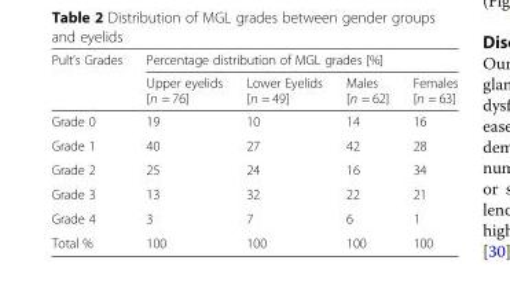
<table><thead><tr><td rowspan="2">Pult’s Grades</td><td colspan="4">Percentage distribution of MGL grades [%]</td></tr><tr><td>Upper eyelids [n = 76]</td><td>Lower Eyelids [n = 49]</td><td>Males [n = 62]</td><td>Females [n = 63]</td></tr></thead><tbody><tr><td>Grade 0</td><td>19</td><td>10</td><td>14</td><td>16</td></tr><tr><td>Grade 1</td><td>40</td><td>27</td><td>42</td><td>28</td></tr><tr><td>Grade 2</td><td>25</td><td>24</td><td>16</td><td>34</td></tr><tr><td>Grade 3</td><td>13</td><td>32</td><td>22</td><td>21</td></tr><tr><td>Grade 4</td><td>3</td><td>7</td><td>6</td><td>1</td></tr><tr><td>Total %</td><td>100</td><td>100</td><td>100</td><td>100</td></tr></tbody></table>